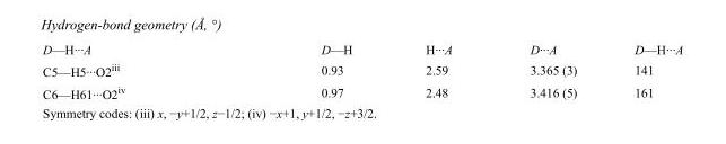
<table><tbody><tr><td>D—H···A</td><td>D—H</td><td>H···A</td><td>D···A</td><td>D—H···A</td></tr><tr><td>C5—H5···O2<sup>iii</sup></td><td>0.93</td><td>2.59</td><td>3.365 (3)</td><td>141</td></tr><tr><td>C6—H61···O2<sup>iv</sup></td><td>0.97</td><td>2.48</td><td>3.416 (5)</td><td>161</td></tr></tbody></table>